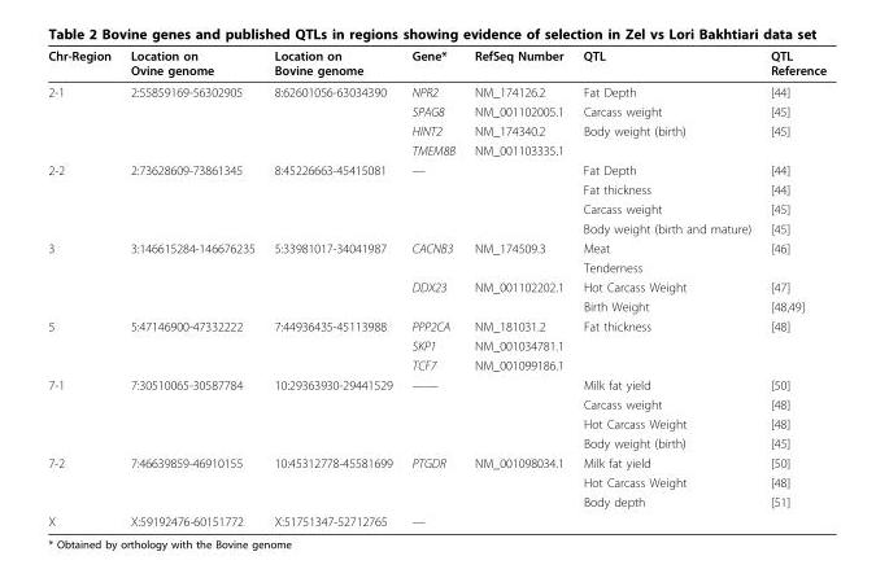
<table><thead><tr><td>Chr-Region</td><td>Location on Ovine genome</td><td>Location on Bovine genome</td><td>Gene*</td><td>RefSeq Number</td><td>QTL</td><td>QTL Reference</td></tr></thead><tbody><tr><td rowspan="4">2-1</td><td>2:55859169-56302905</td><td>8:62601056-63034390</td><td>NPR2</td><td>NM_174126.2</td><td>Fat Depth</td><td>[44]</td></tr><tr><td></td><td></td><td>SPAG8</td><td>NM_001102005.1</td><td>Carcass weight</td><td>[45]</td></tr><tr><td></td><td></td><td>HINT2</td><td>NM_174340.2</td><td>Body weight (birth)</td><td>[45]</td></tr><tr><td></td><td></td><td>TMEM8B</td><td>NM_001103335.1</td><td></td><td></td></tr><tr><td rowspan="4">2-2</td><td>2:73628609-73861345</td><td>8:45226663-45415081</td><td>—</td><td></td><td>Fat Depth</td><td>[44]</td></tr><tr><td></td><td></td><td></td><td></td><td>Fat thickness</td><td>[44]</td></tr><tr><td></td><td></td><td></td><td></td><td>Carcass weight</td><td>[45]</td></tr><tr><td></td><td></td><td></td><td></td><td>Body weight (birth and mature)</td><td>[45]</td></tr><tr><td rowspan="4">3</td><td>3:146615284-146676235</td><td>5:33981017-34041987</td><td>CACNB3</td><td>NM_174509.3</td><td>Meat</td><td>[46]</td></tr><tr><td></td><td></td><td></td><td></td><td>Tenderness</td><td></td></tr><tr><td></td><td></td><td>DDX23</td><td>NM_001102202.1</td><td>Hot Carcass Weight</td><td>[47]</td></tr><tr><td></td><td></td><td></td><td></td><td>Birth Weight</td><td>[48,49]</td></tr><tr><td rowspan="3">5</td><td>5:47146900-47332222</td><td>7:44936435-45113988</td><td>PPP2CA</td><td>NM_181031.2</td><td>Fat thickness</td><td>[48]</td></tr><tr><td></td><td></td><td>SKP1</td><td>NM_001034781.1</td><td></td><td></td></tr><tr><td></td><td></td><td>TCF7</td><td>NM_001099186.1</td><td></td><td></td></tr><tr><td rowspan="4">7-1</td><td>7:30510065-30587784</td><td>10:29363930-29441529</td><td>——</td><td></td><td>Milk fat yield</td><td>[50]</td></tr><tr><td></td><td></td><td></td><td></td><td>Carcass weight</td><td>[48]</td></tr><tr><td></td><td></td><td></td><td></td><td>Hot Carcass Weight</td><td>[48]</td></tr><tr><td></td><td></td><td></td><td></td><td>Body weight (birth)</td><td>[45]</td></tr><tr><td rowspan="3">7-2</td><td>7:46639859-46910155</td><td>10:45312778-45581699</td><td>PTGDR</td><td>NM_001098034.1</td><td>Milk fat yield</td><td>[50]</td></tr><tr><td></td><td></td><td></td><td></td><td>Hot Carcass Weight</td><td>[48]</td></tr><tr><td></td><td></td><td></td><td></td><td>Body depth</td><td>[51]</td></tr><tr><td>X</td><td>X:59192476-60151772</td><td>X:51751347-52712765</td><td>—</td><td></td><td></td><td></td></tr></tbody></table>